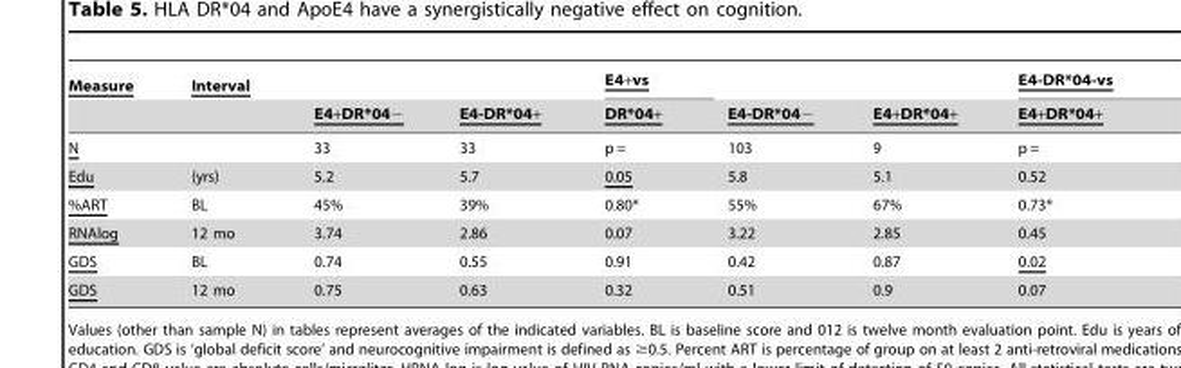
<table><thead><tr><td rowspan="2">Measure</td><td rowspan="2">Interval</td><td rowspan="2">E4+DR*04−</td><td rowspan="2">E4-DR*04+</td><td rowspan="2">E4+vs DR*04+</td><td rowspan="2">E4-DR*04−</td><td rowspan="2">E4+DR*04+</td><td rowspan="2">E4-DR*04-vs E4+DR*04+</td></tr><tr></tr></thead><tbody><tr><td>N</td><td></td><td>33</td><td>33</td><td>p =</td><td>103</td><td>9</td><td>p =</td></tr><tr><td>Edu</td><td>(yrs)</td><td>5.2</td><td>5.7</td><td>0.05</td><td>5.8</td><td>5.1</td><td>0.52</td></tr><tr><td>%ART</td><td>BL</td><td>45%</td><td>39%</td><td>0.80*</td><td>55%</td><td>67%</td><td>0.73*</td></tr><tr><td>RNAlog</td><td>12 mo</td><td>3.74</td><td>2.86</td><td>0.07</td><td>3.22</td><td>2.85</td><td>0.45</td></tr><tr><td>GDS</td><td>BL</td><td>0.74</td><td>0.55</td><td>0.91</td><td>0.42</td><td>0.87</td><td>0.02</td></tr><tr><td>GDS</td><td>12 mo</td><td>0.75</td><td>0.63</td><td>0.32</td><td>0.51</td><td>0.9</td><td>0.07</td></tr></tbody></table>